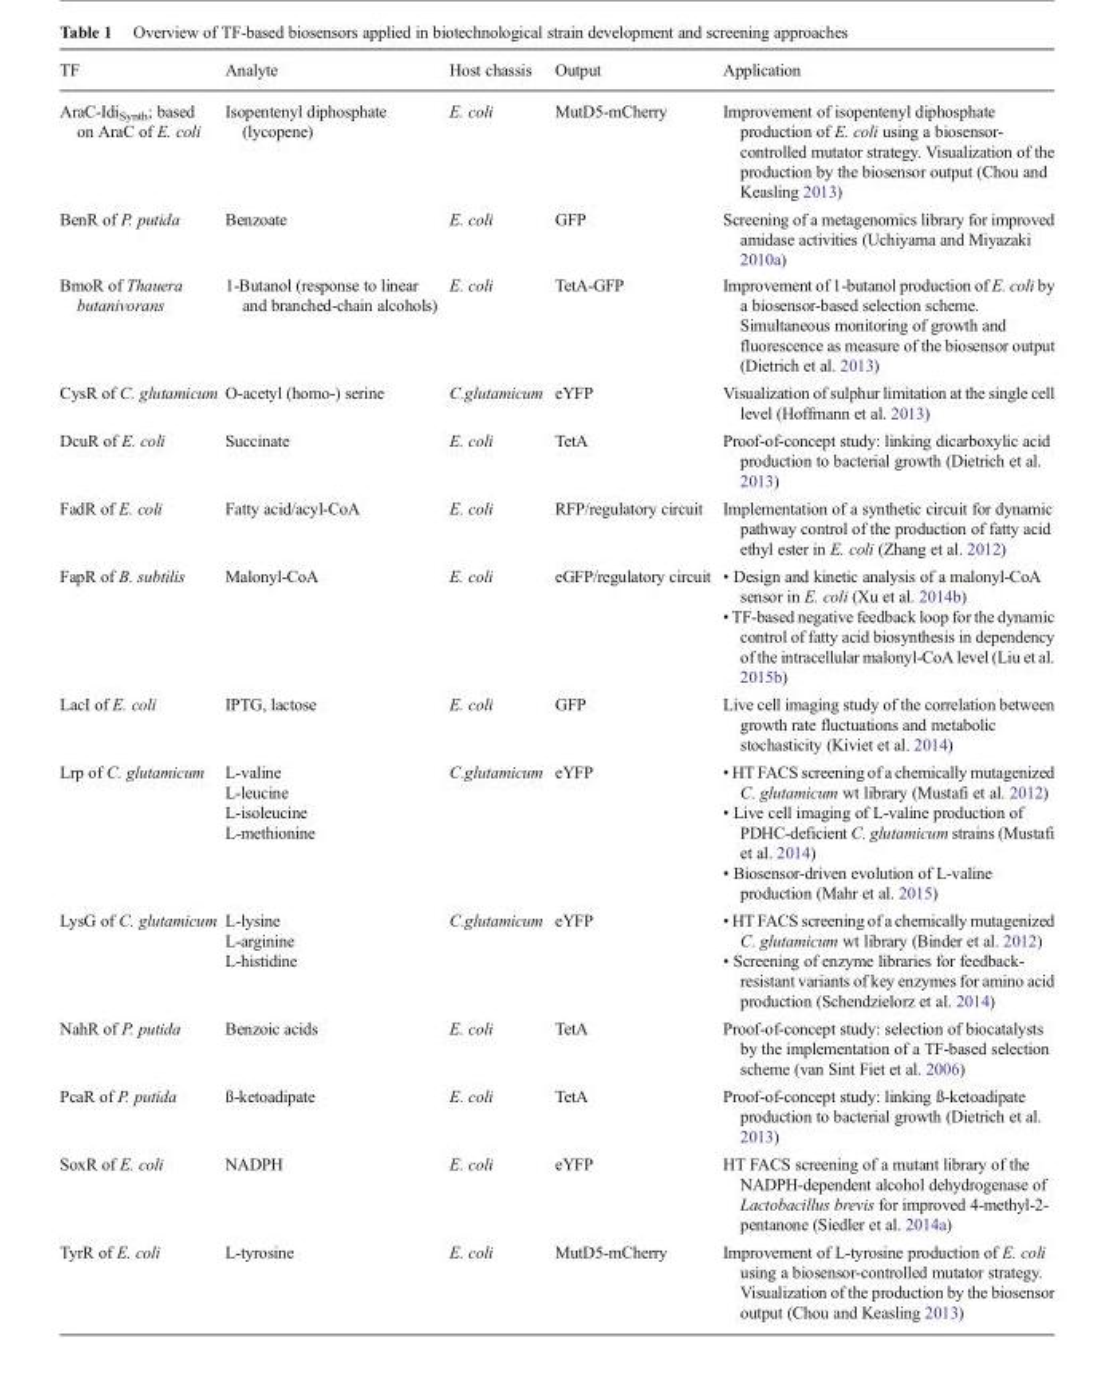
<table><thead><tr><td>TF</td><td>Analyte</td><td>Host chassis</td><td>Output</td><td>Application</td></tr></thead><tbody><tr><td>AraC-Idi<sub>Synth</sub>; based on AraC of E. coli</td><td>Isopentenyl diphosphate (lycopene)</td><td>E. coli</td><td>MutD5-mCherry</td><td>Improvement of isopentenyl diphosphate production of E. coli using a biosensor- controlled mutator strategy. Visualization of the production by the biosensor output (Chou and Keasling 2013)</td></tr><tr><td>BenR of P. putida</td><td>Benzoate</td><td>E. coli</td><td>GFP</td><td>Screening of a metagenomics library for improved amidase activities (Uchiyama and Miyazaki 2010a)</td></tr><tr><td>BmoR of Thauera butanivorans</td><td>1-Butanol (response to linear and branched-chain alcohols)</td><td>E. coli</td><td>TetA-GFP</td><td>Improvement of 1-butanol production of E. coli by a biosensor-based selection scheme. Simultaneous monitoring of growth and fluorescence as measure of the biosensor output (Dietrich et al. 2013)</td></tr><tr><td>CysR of C. glutamicum</td><td>O-acetyl (homo-) serine</td><td>C.glutamicum</td><td>eYFP</td><td>Visualization of sulphur limitation at the single cell level (Hoffmann et al. 2013)</td></tr><tr><td>DcuR of E. coli</td><td>Succinate</td><td>E. coli</td><td>TetA</td><td>Proof-of-concept study: linking dicarboxylic acid production to bacterial growth (Dietrich et al. 2013)</td></tr><tr><td>FadR of E. coli</td><td>Fatty acid/acyl-CoA</td><td>E. coli</td><td>RFP/regulatory circuit</td><td>Implementation of a synthetic circuit for dynamic pathway control of the production of fatty acid ethyl ester in E. coli (Zhang et al. 2012)</td></tr><tr><td>FapR of B. subtilis</td><td>Malonyl-CoA</td><td>E. coli</td><td>eGFP/regulatory circuit</td><td>• Design and kinetic analysis of a malonyl-CoA sensor in E. coli (Xu et al. 2014b) • TF-based negative feedback loop for the dynamic control of fatty acid biosynthesis in dependency of the intracellular malonyl-CoA level (Liu et al. 2015b)</td></tr><tr><td>LacI of E. coli</td><td>IPTG, lactose</td><td>E. coli</td><td>GFP</td><td>Live cell imaging study of the correlation between growth rate fluctuations and metabolic stochasticity (Kiviet et al. 2014)</td></tr><tr><td>Lrp of C. glutamicum</td><td>L-valine L-leucine L-isoleucine L-methionine</td><td>C.glutamicum</td><td>eYFP</td><td>• HT FACS screening of a chemically mutagenized C. glutamicum wt library (Mustafi et al. 2012) • Live cell imaging of L-valine production of PDHC-deficient C. glutamicum strains (Mustafi et al. 2014) • Biosensor-driven evolution of L-valine production (Mahr et al. 2015)</td></tr><tr><td>LysG of C. glutamicum</td><td>L-lysine L-arginine L-histidine</td><td>C.glutamicum</td><td>eYFP</td><td>• HT FACS screening of a chemically mutagenized C. glutamicum wt library (Binder et al. 2012) • Screening of enzyme libraries for feedback- resistant variants of key enzymes for amino acid production (Schendzielorz et al. 2014)</td></tr><tr><td>NahR of P. putida</td><td>Benzoic acids</td><td>E. coli</td><td>TetA</td><td>Proof-of-concept study: selection of biocatalysts by the implementation of a TF-based selection scheme (van Sint Fiet et al. 2006)</td></tr><tr><td>PcaR of P. putida</td><td>ß-ketoadipate</td><td>E. coli</td><td>TetA</td><td>Proof-of-concept study: linking ß-ketoadipate production to bacterial growth (Dietrich et al. 2013)</td></tr><tr><td>SoxR of E. coli</td><td>NADPH</td><td>E. coli</td><td>eYFP</td><td>HT FACS screening of a mutant library of the NADPH-dependent alcohol dehydrogenase of Lactobacillus brevis for improved 4-methyl-2- pentanone (Siedler et al. 2014a)</td></tr><tr><td>TyrR of E. coli</td><td>L-tyrosine</td><td>E. coli</td><td>MutD5-mCherry</td><td>Improvement of L-tyrosine production of E. coli using a biosensor-controlled mutator strategy. Visualization of the production by the biosensor output (Chou and Keasling 2013)</td></tr></tbody></table>